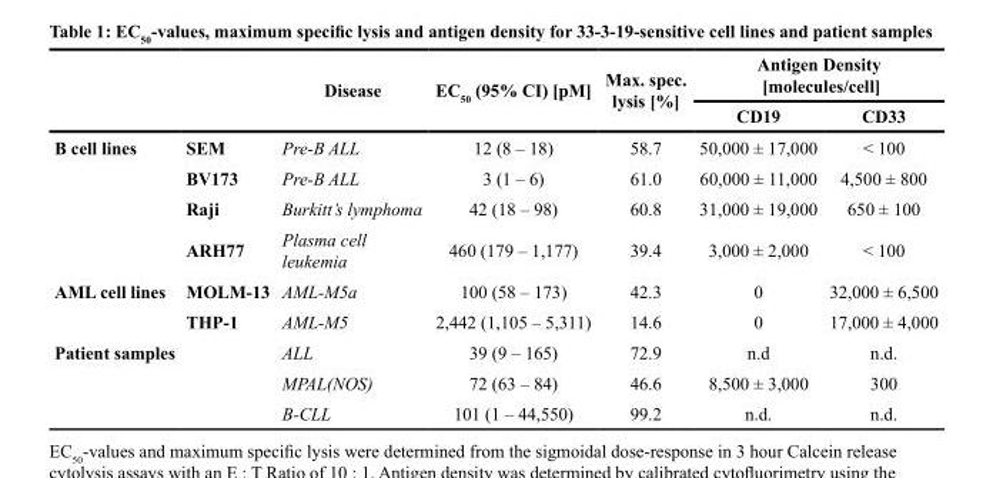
<table><thead><tr><td rowspan="2"></td><td rowspan="2"></td><td rowspan="2">Disease</td><td rowspan="2">EC<sub>50</sub> (95% CI) [pM]</td><td rowspan="2">Max. spec. lysis [%]</td><td colspan="2">Antigen Density [molecules/cell]</td></tr><tr><td>CD19</td><td>CD33</td></tr></thead><tbody><tr><td rowspan="4">B cell lines</td><td>SEM</td><td>Pre-B ALL</td><td>12 (8 – 18)</td><td>58.7</td><td>50,000 ± 17,000</td><td>&lt; 100</td></tr><tr><td>BV173</td><td>Pre-B ALL</td><td>3 (1 – 6)</td><td>61.0</td><td>60,000 ± 11,000</td><td>4,500 ± 800</td></tr><tr><td>Raji</td><td>Burkitt’s lymphoma</td><td>42 (18 – 98)</td><td>60.8</td><td>31,000 ± 19,000</td><td>650 ± 100</td></tr><tr><td>ARH77</td><td>Plasma cell leukemia</td><td>460 (179 – 1,177)</td><td>39.4</td><td>3,000 ± 2,000</td><td>&lt; 100</td></tr><tr><td rowspan="2">AML cell lines</td><td>MOLM-13</td><td>AML-M5a</td><td>100 (58 – 173)</td><td>42.3</td><td>0</td><td>32,000 ± 6,500</td></tr><tr><td>THP-1</td><td>AML-M5</td><td>2,442 (1,105 – 5,311)</td><td>14.6</td><td>0</td><td>17,000 ± 4,000</td></tr><tr><td rowspan="3">Patient samples</td><td></td><td>ALL</td><td>39 (9 – 165)</td><td>72.9</td><td>n.d</td><td>n.d.</td></tr><tr><td></td><td>MPAL(NOS)</td><td>72 (63 – 84)</td><td>46.6</td><td>8,500 ± 3,000</td><td>300</td></tr><tr><td></td><td>B-CLL</td><td>101 (1 – 44,550)</td><td>99.2</td><td>n.d.</td><td>n.d.</td></tr></tbody></table>